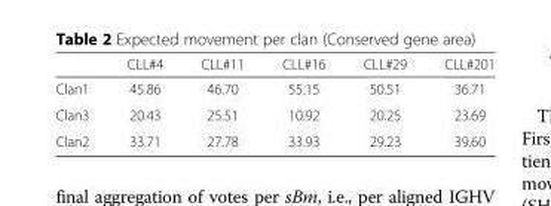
<table><thead><tr><td></td><td>CLL#4</td><td>CLL#11</td><td>CLL#16</td><td>CLL#29</td><td>CLL#201</td></tr></thead><tbody><tr><td>Clan1</td><td>45.86</td><td>46.70</td><td>55.15</td><td>50.51</td><td>36.71</td></tr><tr><td>Clan3</td><td>20.43</td><td>25.51</td><td>10.92</td><td>20.25</td><td>23.69</td></tr><tr><td>Clan2</td><td>33.71</td><td>27.78</td><td>33.93</td><td>29.23</td><td>39.60</td></tr></tbody></table>